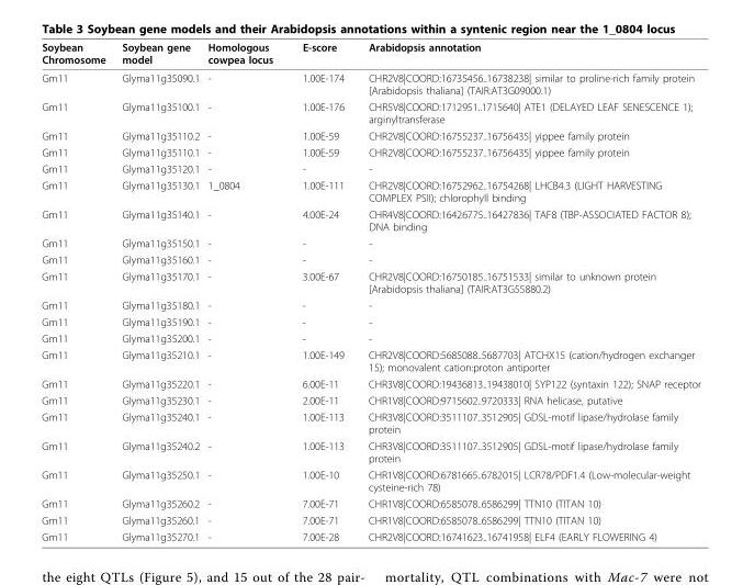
<table><thead><tr><td>Soybean Chromosome</td><td>Soybean gene model</td><td>Homologous cowpea locus</td><td>E-score</td><td>Arabidopsis annotation</td></tr></thead><tbody><tr><td>Gm11</td><td>Glyma11g35090.1</td><td>-</td><td>1.00E-174</td><td>CHR2V8|COORD:16735456..16738238| similar to proline-rich family protein [Arabidopsis thaliana] (TAIR:AT3G09000.1)</td></tr><tr><td>Gm11</td><td>Glyma11g35100.1</td><td>-</td><td>1.00E-176</td><td>CHR5V8|COORD:1712951..1715640| ATE1 (DELAYED LEAF SENESCENCE 1); arginyltransferase</td></tr><tr><td>Gm11</td><td>Glyma11g35110.2</td><td>-</td><td>1.00E-59</td><td>CHR2V8|COORD:16755237..16756435| yippee family protein</td></tr><tr><td>Gm11</td><td>Glyma11g35110.1</td><td>-</td><td>1.00E-59</td><td>CHR2V8|COORD:16755237..16756435| yippee family protein</td></tr><tr><td>Gm11</td><td>Glyma11g35120.1</td><td>-</td><td>-</td><td>-</td></tr><tr><td>Gm11</td><td>Glyma11g35130.1</td><td>1_0804</td><td>1.00E-111</td><td>CHR2V8|COORD:16752962..16754268| LHCB4.3 (LIGHT HARVESTING COMPLEX PSII); chlorophyll binding</td></tr><tr><td>Gm11</td><td>Glyma11g35140.1</td><td>-</td><td>4.00E-24</td><td>CHR4V8|COORD:16426775..16427836| TAF8 (TBP-ASSOCIATED FACTOR 8); DNA binding</td></tr><tr><td>Gm11</td><td>Glyma11g35150.1</td><td>-</td><td>-</td><td>-</td></tr><tr><td>Gm11</td><td>Glyma11g35160.1</td><td>-</td><td>-</td><td>-</td></tr><tr><td>Gm11</td><td>Glyma11g35170.1</td><td>-</td><td>3.00E-67</td><td>CHR2V8|COORD:16750185..16751533| similar to unknown protein [Arabidopsis thaliana] (TAIR:AT3G55880.2)</td></tr><tr><td>Gm11</td><td>Glyma11g35180.1</td><td>-</td><td>-</td><td>-</td></tr><tr><td>Gm11</td><td>Glyma11g35190.1</td><td>-</td><td>-</td><td>-</td></tr><tr><td>Gm11</td><td>Glyma11g35200.1</td><td>-</td><td>-</td><td>-</td></tr><tr><td>Gm11</td><td>Glyma11g35210.1</td><td>-</td><td>1.00E-149</td><td>CHR2V8|COORD:5685088..5687703| ATCHX15 (cation/hydrogen exchanger 15); monovalent cation:proton antiporter</td></tr><tr><td>Gm11</td><td>Glyma11g35220.1</td><td>-</td><td>6.00E-11</td><td>CHR3V8|COORD:19436813..19438010| SYP122 (syntaxin 122); SNAP receptor</td></tr><tr><td>Gm11</td><td>Glyma11g35230.1</td><td>-</td><td>2.00E-11</td><td>CHR1V8|COORD:9715602..9720333| RNA helicase, putative</td></tr><tr><td>Gm11</td><td>Glyma11g35240.1</td><td>-</td><td>1.00E-113</td><td>CHR3V8|COORD:3511107..3512905| GDSL-motif lipase/hydrolase family protein</td></tr><tr><td>Gm11</td><td>Glyma11g35240.2</td><td>-</td><td>1.00E-113</td><td>CHR3V8|COORD:3511107..3512905| GDSL-motif lipase/hydrolase family protein</td></tr><tr><td>Gm11</td><td>Glyma11g35250.1</td><td>-</td><td>1.00E-10</td><td>CHR1V8|COORD:6781665..6782015| LCR78/PDF1.4 (Low-molecular-weight cysteine-rich 78)</td></tr><tr><td>Gm11</td><td>Glyma11g35260.2</td><td>-</td><td>7.00E-71</td><td>CHR1V8|COORD:6585078..6586299| TTN10 (TITAN 10)</td></tr><tr><td>Gm11</td><td>Glyma11g35260.1</td><td>-</td><td>7.00E-71</td><td>CHR1V8|COORD:6585078..6586299| TTN10 (TITAN 10)</td></tr><tr><td>Gm11</td><td>Glyma11g35270.1</td><td>-</td><td>7.00E-28</td><td>CHR2V8|COORD:16741623..16741958| ELF4 (EARLY FLOWERING 4)</td></tr></tbody></table>